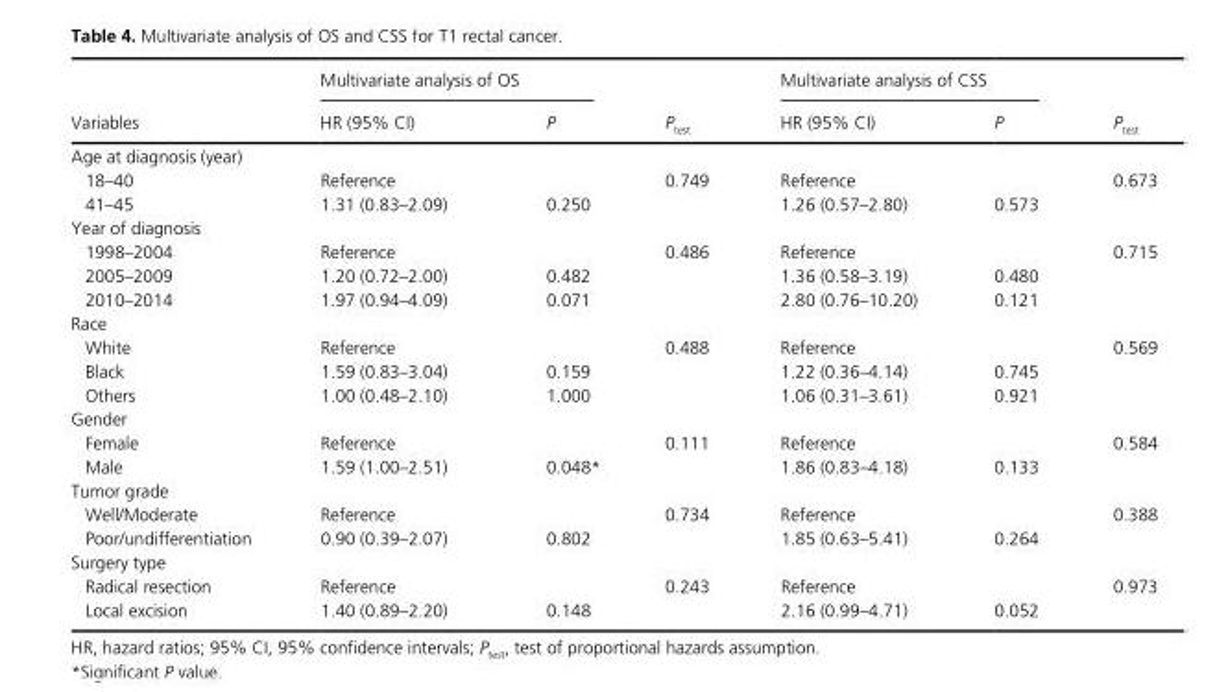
<table><thead><tr><td rowspan="2">Variables</td><td colspan="2">Multivariate analysis of OS</td><td rowspan="2">P<sub>test</sub></td><td colspan="2">Multivariate analysis of CSS</td><td rowspan="2">P<sub>test</sub></td></tr><tr><td>HR (95% CI)</td><td>P</td><td>HR (95% CI)</td><td>P</td></tr></thead><tbody><tr><td colspan="7">Age at diagnosis (year)</td></tr><tr><td>18–40</td><td>Reference</td><td></td><td rowspan="2">0.749</td><td>Reference</td><td></td><td rowspan="2">0.673</td></tr><tr><td>41–45</td><td>1.31 (0.83–2.09)</td><td>0.250</td><td>1.26 (0.57–2.80)</td><td>0.573</td></tr><tr><td colspan="7">Year of diagnosis</td></tr><tr><td>1998–2004</td><td>Reference</td><td></td><td rowspan="3">0.486</td><td>Reference</td><td></td><td rowspan="3">0.715</td></tr><tr><td>2005–2009</td><td>1.20 (0.72–2.00)</td><td>0.482</td><td>1.36 (0.58–3.19)</td><td>0.480</td></tr><tr><td>2010–2014</td><td>1.97 (0.94–4.09)</td><td>0.071</td><td>2.80 (0.76–10.20)</td><td>0.121</td></tr><tr><td colspan="7">Race</td></tr><tr><td>White</td><td>Reference</td><td></td><td rowspan="3">0.488</td><td>Reference</td><td></td><td rowspan="3">0.569</td></tr><tr><td>Black</td><td>1.59 (0.83–3.04)</td><td>0.159</td><td>1.22 (0.36–4.14)</td><td>0.745</td></tr><tr><td>Others</td><td>1.00 (0.48–2.10)</td><td>1.000</td><td>1.06 (0.31–3.61)</td><td>0.921</td></tr><tr><td colspan="7">Gender</td></tr><tr><td>Female</td><td>Reference</td><td></td><td rowspan="2">0.111</td><td>Reference</td><td></td><td rowspan="2">0.584</td></tr><tr><td>Male</td><td>1.59 (1.00–2.51)</td><td>0.048*</td><td>1.86 (0.83–4.18)</td><td>0.133</td></tr><tr><td colspan="7">Tumor grade</td></tr><tr><td>Well/Moderate</td><td>Reference</td><td></td><td rowspan="2">0.734</td><td>Reference</td><td></td><td rowspan="2">0.388</td></tr><tr><td>Poor/undifferentiation</td><td>0.90 (0.39–2.07)</td><td>0.802</td><td>1.85 (0.63–5.41)</td><td>0.264</td></tr><tr><td colspan="7">Surgery type</td></tr><tr><td>Radical resection</td><td>Reference</td><td></td><td rowspan="2">0.243</td><td>Reference</td><td></td><td rowspan="2">0.973</td></tr><tr><td>Local excision</td><td>1.40 (0.89–2.20)</td><td>0.148</td><td>2.16 (0.99–4.71)</td><td>0.052</td></tr></tbody></table>